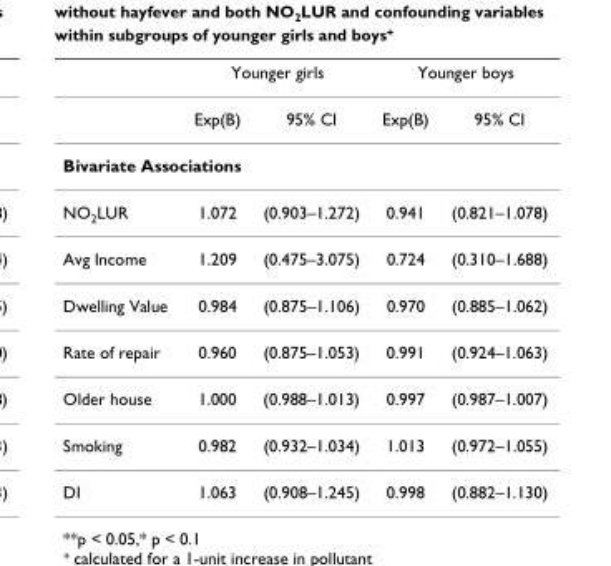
<table><thead><tr><td rowspan="2"></td><td colspan="2">Younger girls</td><td colspan="2">Younger boys</td></tr><tr><td>Exp(B)</td><td>95% CI</td><td>Exp(B)</td><td>95% CI</td></tr></thead><tbody><tr><td colspan="5">Bivariate Associations</td></tr><tr><td>NO<sub>2</sub>LUR</td><td>1.072</td><td>(0.903–1.272)</td><td>0.941</td><td>(0.821–1.078)</td></tr><tr><td>Avg Income</td><td>1.209</td><td>(0.475–3.075)</td><td>0.724</td><td>(0.310–1.688)</td></tr><tr><td>Dwelling Value</td><td>0.984</td><td>(0.875–1.106)</td><td>0.970</td><td>(0.885–1.062)</td></tr><tr><td>Rate of repair</td><td>0.960</td><td>(0.875–1.053)</td><td>0.991</td><td>(0.924–1.063)</td></tr><tr><td>Older house</td><td>1.000</td><td>(0.988–1.013)</td><td>0.997</td><td>(0.987–1.007)</td></tr><tr><td>Smoking</td><td>0.982</td><td>(0.932–1.034)</td><td>1.013</td><td>(0.972–1.055)</td></tr><tr><td>DI</td><td>1.063</td><td>(0.908–1.245)</td><td>0.998</td><td>(0.882–1.130)</td></tr></tbody></table>